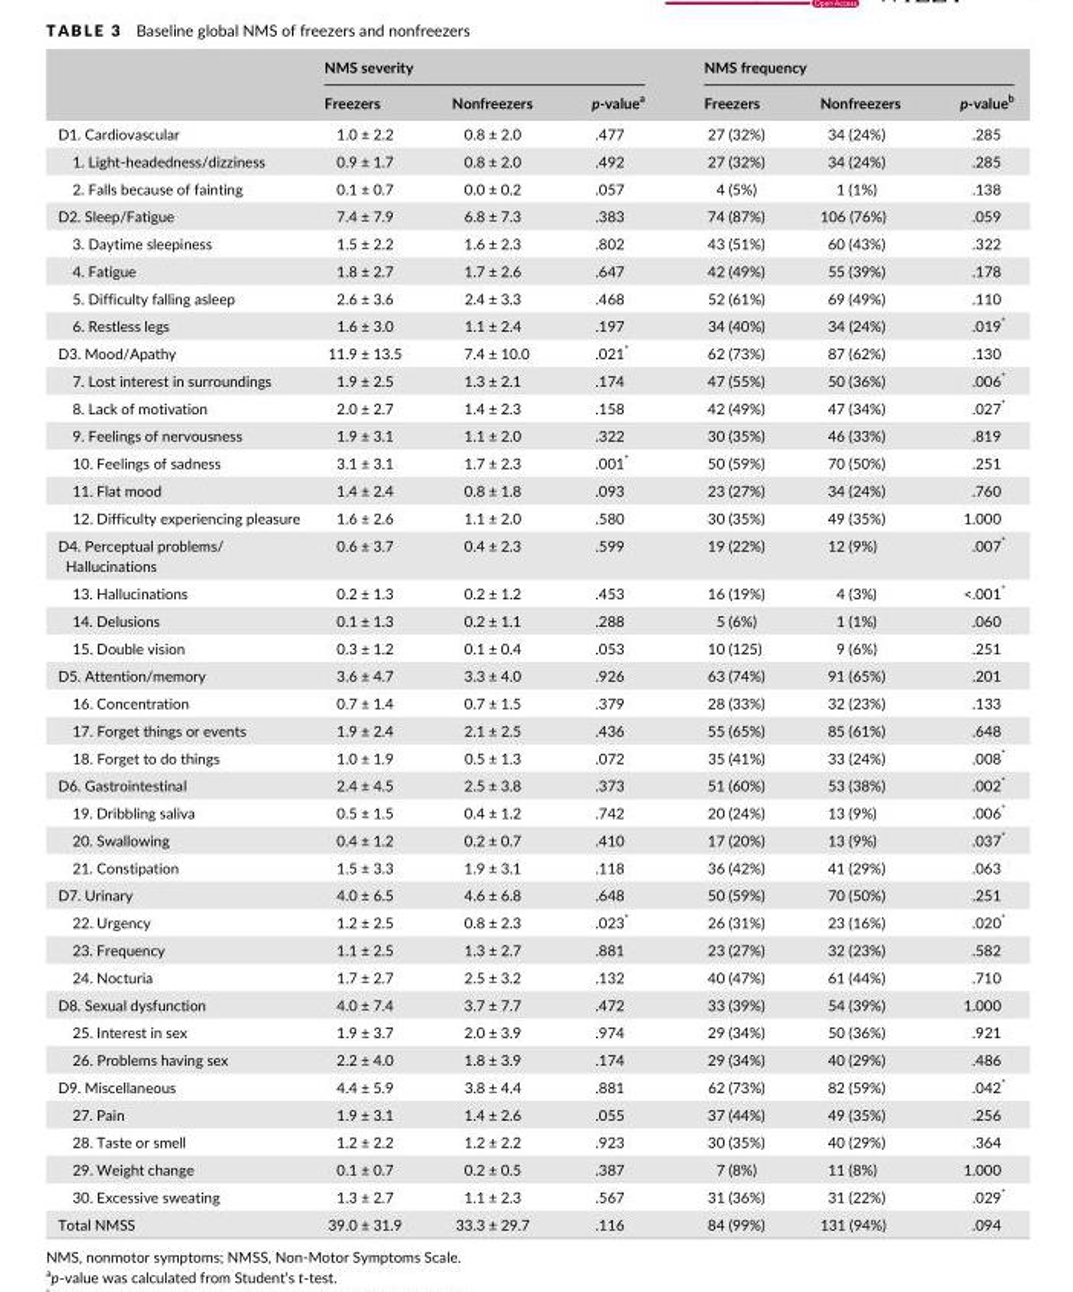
<table><thead><tr><td rowspan="2"></td><td colspan="3">NMS severity</td><td colspan="3">NMS frequency</td></tr><tr><td>Freezers</td><td>Nonfreezers</td><td>p-value<sup>a</sup></td><td>Freezers</td><td>Nonfreezers</td><td>p- value<sup>b</sup></td></tr></thead><tbody><tr><td>D1. Cardiovascular</td><td>1.0 ± 2.2</td><td>0.8 ± 2.0</td><td>.477</td><td>27 (32%)</td><td>34 (24%)</td><td>.285</td></tr><tr><td>1. Light- headedness/dizziness</td><td>0.9 ± 1.7</td><td>0.8 ± 2.0</td><td>.492</td><td>27 (32%)</td><td>34 (24%)</td><td>.285</td></tr><tr><td>2. Falls because of fainting</td><td>0.1 ± 0.7</td><td>0.0 ± 0.2</td><td>.057</td><td>4 (5%)</td><td>1 (1%)</td><td>.138</td></tr><tr><td>D2. Sleep/Fatigue</td><td>7.4 ± 7.9</td><td>6.8 ± 7.3</td><td>.383</td><td>74 (87%)</td><td>106 (76%)</td><td>.059</td></tr><tr><td>3. Daytime sleepiness</td><td>1.5 ± 2.2</td><td>1.6 ± 2.3</td><td>.802</td><td>43 (51%)</td><td>60 (43%)</td><td>.322</td></tr><tr><td>4. Fatigue</td><td>1.8 ± 2.7</td><td>1.7 ± 2.6</td><td>.647</td><td>42 (49%)</td><td>55 (39%)</td><td>.178</td></tr><tr><td>5. Difficulty falling asleep</td><td>2.6 ± 3.6</td><td>2.4 ± 3.3</td><td>.468</td><td>52 (61%)</td><td>69 (49%)</td><td>.110</td></tr><tr><td>6. Restless legs</td><td>1.6 ± 3.0</td><td>1.1 ± 2.4</td><td>.197</td><td>34 (40%)</td><td>34 (24%)</td><td>.019*</td></tr><tr><td>D3. Mood/Apathy</td><td>11.9 ± 13.5</td><td>7.4 ± 10.0</td><td>.021*</td><td>62 (73%)</td><td>87 (62%)</td><td>.130</td></tr><tr><td>7. Lost interest in surroundings</td><td>1.9 ± 2.5</td><td>1.3 ± 2.1</td><td>.174</td><td>47 (55%)</td><td>50 (36%)</td><td>.006*</td></tr><tr><td>8. Lack of motivation</td><td>2.0 ± 2.7</td><td>1.4 ± 2.3</td><td>.158</td><td>42 (49%)</td><td>47 (34%)</td><td>.027*</td></tr><tr><td>9. Feelings of nervousness</td><td>1.9 ± 3.1</td><td>1.1 ± 2.0</td><td>.322</td><td>30 (35%)</td><td>46 (33%)</td><td>.819</td></tr><tr><td>10. Feelings of sadness</td><td>3.1 ± 3.1</td><td>1.7 ± 2.3</td><td>.001*</td><td>50 (59%)</td><td>70 (50%)</td><td>.251</td></tr><tr><td>11. Flat mood</td><td>1.4 ± 2.4</td><td>0.8 ± 1.8</td><td>.093</td><td>23 (27%)</td><td>34 (24%)</td><td>.760</td></tr><tr><td>12. Difficulty experiencing pleasure</td><td>1.6 ± 2.6</td><td>1.1 ± 2.0</td><td>.580</td><td>30 (35%)</td><td>49 (35%)</td><td>1.000</td></tr><tr><td>D4. Perceptual problems/ Hallucinations</td><td>0.6 ± 3.7</td><td>0.4 ± 2.3</td><td>.599</td><td>19 (22%)</td><td>12 (9%)</td><td>.007*</td></tr><tr><td>13. Hallucinations</td><td>0.2 ± 1.3</td><td>0.2 ± 1.2</td><td>.453</td><td>16 (19%)</td><td>4 (3%)</td><td>&lt;.001*</td></tr><tr><td>14. Delusions</td><td>0.1 ± 1.3</td><td>0.2 ± 1.1</td><td>.288</td><td>5 (6%)</td><td>1 (1%)</td><td>.060</td></tr><tr><td>15. Double vision</td><td>0.3 ± 1.2</td><td>0.1 ± 0.4</td><td>.053</td><td>10 (125)</td><td>9 (6%)</td><td>.251</td></tr><tr><td>D5. Attention/memory</td><td>3.6 ± 4.7</td><td>3.3 ± 4.0</td><td>.926</td><td>63 (74%)</td><td>91 (65%)</td><td>.201</td></tr><tr><td>16. Concentration</td><td>0.7 ± 1.4</td><td>0.7 ± 1.5</td><td>.379</td><td>28 (33%)</td><td>32 (23%)</td><td>.133</td></tr><tr><td>17. Forget things or events</td><td>1.9 ± 2.4</td><td>2.1 ± 2.5</td><td>.436</td><td>55 (65%)</td><td>85 (61%)</td><td>.648</td></tr><tr><td>18. Forget to do things</td><td>1.0 ± 1.9</td><td>0.5 ± 1.3</td><td>.072</td><td>35 (41%)</td><td>33 (24%)</td><td>.008*</td></tr><tr><td>D6. Gastrointestinal</td><td>2.4 ± 4.5</td><td>2.5 ± 3.8</td><td>.373</td><td>51 (60%)</td><td>53 (38%)</td><td>.002*</td></tr><tr><td>19. Dribbling saliva</td><td>0.5 ± 1.5</td><td>0.4 ± 1.2</td><td>.742</td><td>20 (24%)</td><td>13 (9%)</td><td>.006*</td></tr><tr><td>20. Swallowing</td><td>0.4 ± 1.2</td><td>0.2 ± 0.7</td><td>.410</td><td>17 (20%)</td><td>13 (9%)</td><td>.037*</td></tr><tr><td>21. Constipation</td><td>1.5 ± 3.3</td><td>1.9 ± 3.1</td><td>.118</td><td>36 (42%)</td><td>41 (29%)</td><td>.063</td></tr><tr><td>D7. Urinary</td><td>4.0 ± 6.5</td><td>4.6 ± 6.8</td><td>.648</td><td>50 (59%)</td><td>70 (50%)</td><td>.251</td></tr><tr><td>22. Urgency</td><td>1.2 ± 2.5</td><td>0.8 ± 2.3</td><td>.023*</td><td>26 (31%)</td><td>23 (16%)</td><td>.020*</td></tr><tr><td>23. Frequency</td><td>1.1 ± 2.5</td><td>1.3 ± 2.7</td><td>.881</td><td>23 (27%)</td><td>32 (23%)</td><td>.582</td></tr><tr><td>24. Nocturia</td><td>1.7 ± 2.7</td><td>2.5 ± 3.2</td><td>.132</td><td>40 (47%)</td><td>61 (44%)</td><td>.710</td></tr><tr><td>D8. Sexual dysfunction</td><td>4.0 ± 7.4</td><td>3.7 ± 7.7</td><td>.472</td><td>33 (39%)</td><td>54 (39%)</td><td>1.000</td></tr><tr><td>25. Interest in sex</td><td>1.9 ± 3.7</td><td>2.0 ± 3.9</td><td>.974</td><td>29 (34%)</td><td>50 (36%)</td><td>.921</td></tr><tr><td>26. Problems having sex</td><td>2.2 ± 4.0</td><td>1.8 ± 3.9</td><td>.174</td><td>29 (34%)</td><td>40 (29%)</td><td>.486</td></tr><tr><td>D9. Miscellaneous</td><td>4.4 ± 5.9</td><td>3.8 ± 4.4</td><td>.881</td><td>62 (73%)</td><td>82 (59%)</td><td>.042*</td></tr><tr><td>27. Pain</td><td>1.9 ± 3.1</td><td>1.4 ± 2.6</td><td>.055</td><td>37 (44%)</td><td>49 (35%)</td><td>.256</td></tr><tr><td>28. Taste or smell</td><td>1.2 ± 2.2</td><td>1.2 ± 2.2</td><td>.923</td><td>30 (35%)</td><td>40 (29%)</td><td>.364</td></tr><tr><td>29. Weight change</td><td>0.1 ± 0.7</td><td>0.2 ± 0.5</td><td>.387</td><td>7 (8%)</td><td>11 (8%)</td><td>1.000</td></tr><tr><td>30. Excessive sweating</td><td>1.3 ± 2.7</td><td>1.1 ± 2.3</td><td>.567</td><td>31 (36%)</td><td>31 (22%)</td><td>.029*</td></tr><tr><td>Total NMSS</td><td>39.0 ± 31.9</td><td>33.3 ± 29.7</td><td>.116</td><td>84 (99%)</td><td>131 (94%)</td><td>.094</td></tr></tbody></table>